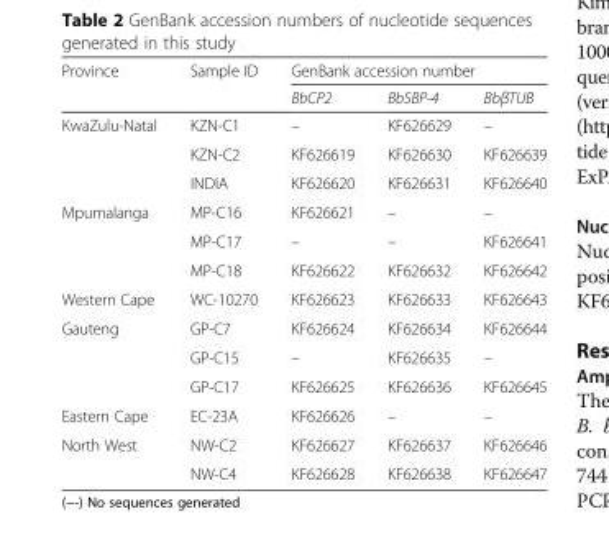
<table><thead><tr><td rowspan="2">Province</td><td rowspan="2">Sample ID</td><td colspan="3">GenBank accession number</td></tr><tr><td>BbCP2</td><td>BbSBP-4</td><td>BbβTUB</td></tr></thead><tbody><tr><td rowspan="3">KwaZulu-Natal</td><td>KZN-C1</td><td>–</td><td>KF626629</td><td>–</td></tr><tr><td>KZN-C2</td><td>KF626619</td><td>KF626630</td><td>KF626639</td></tr><tr><td>INDIA</td><td>KF626620</td><td>KF626631</td><td>KF626640</td></tr><tr><td rowspan="3">Mpumalanga</td><td>MP-C16</td><td>KF626621</td><td>–</td><td>–</td></tr><tr><td>MP-C17</td><td>–</td><td>–</td><td>KF626641</td></tr><tr><td>MP-C18</td><td>KF626622</td><td>KF626632</td><td>KF626642</td></tr><tr><td>Western Cape</td><td>WC-10270</td><td>KF626623</td><td>KF626633</td><td>KF626643</td></tr><tr><td rowspan="3">Gauteng</td><td>GP-C7</td><td>KF626624</td><td>KF626634</td><td>KF626644</td></tr><tr><td>GP-C15</td><td>–</td><td>KF626635</td><td>–</td></tr><tr><td>GP-C17</td><td>KF626625</td><td>KF626636</td><td>KF626645</td></tr><tr><td>Eastern Cape</td><td>EC-23A</td><td>KF626626</td><td>–</td><td>–</td></tr><tr><td rowspan="2">North West</td><td>NW-C2</td><td>KF626627</td><td>KF626637</td><td>KF626646</td></tr><tr><td>NW-C4</td><td>KF626628</td><td>KF626638</td><td>KF626647</td></tr></tbody></table>